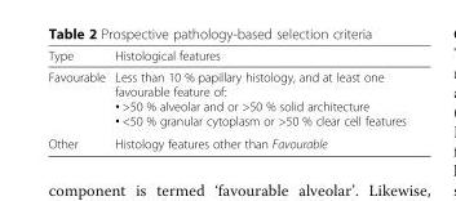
<table><thead><tr><td>Type</td><td>Histological features</td></tr></thead><tbody><tr><td>Favourable</td><td>Less than 10 % papillary histology, and at least one favourable feature of: • &gt;50 % alveolar and or &gt;50 % solid architecture • &lt;50 % granular cytoplasm or &gt;50 % clear cell features</td></tr><tr><td>Other</td><td>Histology features other than Favourable</td></tr></tbody></table>